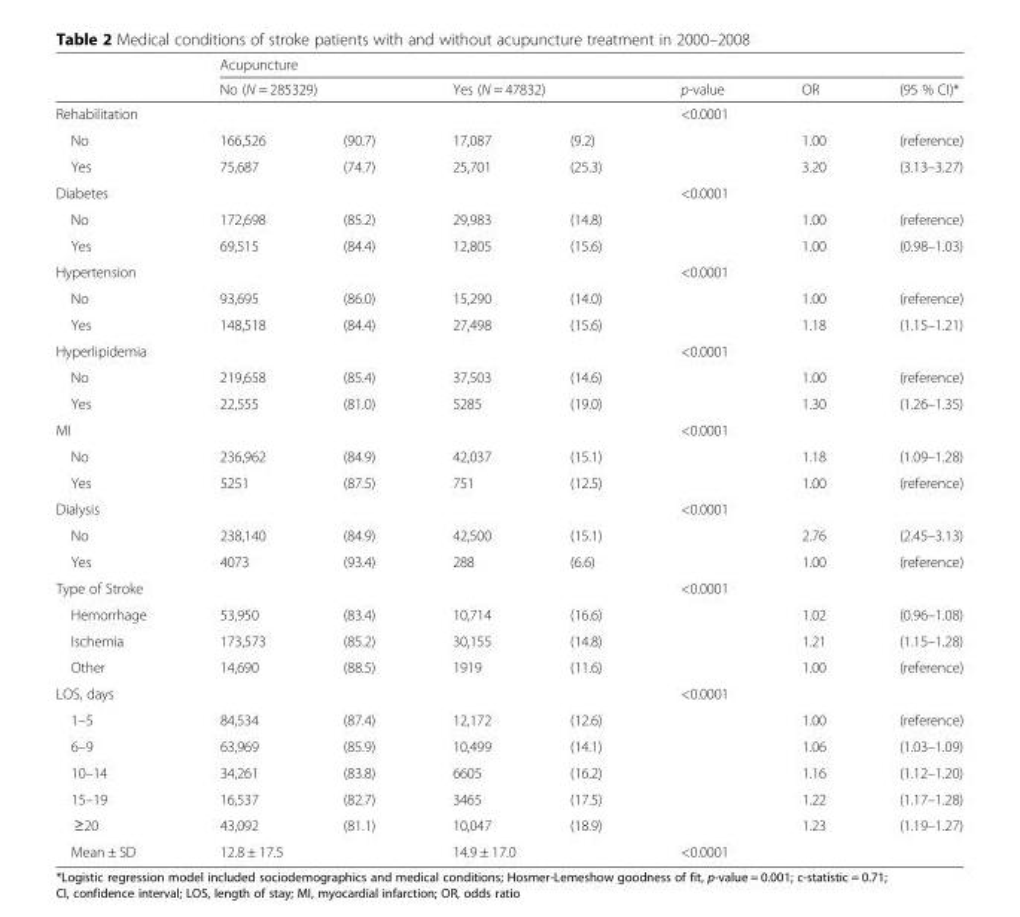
<table><thead><tr><td rowspan="2"></td><td colspan="7">Acupuncture</td></tr><tr><td colspan="2">No (N = 285329)</td><td colspan="2">Yes (N = 47832)</td><td rowspan="3">p-value &lt;0.0001</td><td rowspan="3">OR 1.00</td><td rowspan="3">(95 % CI)* (reference)</td></tr><tr><td colspan="5">Rehabilitation</td></tr><tr><td>No</td><td>166,526</td><td>(90.7)</td><td>17,087</td><td>(9.2)</td></tr></thead><tbody><tr><td>Yes</td><td>75,687</td><td>(74.7)</td><td>25,701</td><td>(25.3)</td><td></td><td>3.20</td><td>(3.13–3.27)</td></tr><tr><td colspan="5">Diabetes</td><td>&lt;0.0001</td><td></td><td></td></tr><tr><td>No</td><td>172,698</td><td>(85.2)</td><td>29,983</td><td>(14.8)</td><td></td><td>1.00</td><td>(reference)</td></tr><tr><td>Yes</td><td>69,515</td><td>(84.4)</td><td>12,805</td><td>(15.6)</td><td></td><td>1.00</td><td>(0.98–1.03)</td></tr><tr><td colspan="5">Hypertension</td><td>&lt;0.0001</td><td></td><td></td></tr><tr><td>No</td><td>93,695</td><td>(86.0)</td><td>15,290</td><td>(14.0)</td><td></td><td>1.00</td><td>(reference)</td></tr><tr><td>Yes</td><td>148,518</td><td>(84.4)</td><td>27,498</td><td>(15.6)</td><td></td><td>1.18</td><td>(1.15–1.21)</td></tr><tr><td colspan="5">Hyperlipidemia</td><td>&lt;0.0001</td><td></td><td></td></tr><tr><td>No</td><td>219,658</td><td>(85.4)</td><td>37,503</td><td>(14.6)</td><td></td><td>1.00</td><td>(reference)</td></tr><tr><td>Yes</td><td>22,555</td><td>(81.0)</td><td>5285</td><td>(19.0)</td><td></td><td>1.30</td><td>(1.26–1.35)</td></tr><tr><td colspan="5">MI</td><td>&lt;0.0001</td><td></td><td></td></tr><tr><td>No</td><td>236,962</td><td>(84.9)</td><td>42,037</td><td>(15.1)</td><td></td><td>1.18</td><td>(1.09–1.28)</td></tr><tr><td>Yes</td><td>5251</td><td>(87.5)</td><td>751</td><td>(12.5)</td><td></td><td>1.00</td><td>(reference)</td></tr><tr><td colspan="5">Dialysis</td><td>&lt;0.0001</td><td></td><td></td></tr><tr><td>No</td><td>238,140</td><td>(84.9)</td><td>42,500</td><td>(15.1)</td><td></td><td>2.76</td><td>(2.45–3.13)</td></tr><tr><td>Yes</td><td>4073</td><td>(93.4)</td><td>288</td><td>(6.6)</td><td></td><td>1.00</td><td>(reference)</td></tr><tr><td colspan="5">Type of Stroke</td><td>&lt;0.0001</td><td></td><td></td></tr><tr><td>Hemorrhage</td><td>53,950</td><td>(83.4)</td><td>10,714</td><td>(16.6)</td><td></td><td>1.02</td><td>(0.96–1.08)</td></tr><tr><td>Ischemia</td><td>173,573</td><td>(85.2)</td><td>30,155</td><td>(14.8)</td><td></td><td>1.21</td><td>(1.15–1.28)</td></tr><tr><td>Other</td><td>14,690</td><td>(88.5)</td><td>1919</td><td>(11.6)</td><td></td><td>1.00</td><td>(reference)</td></tr><tr><td colspan="5">LOS, days</td><td>&lt;0.0001</td><td></td><td></td></tr><tr><td>1–5</td><td>84,534</td><td>(87.4)</td><td>12,172</td><td>(12.6)</td><td></td><td>1.00</td><td>(reference)</td></tr><tr><td>6–9</td><td>63,969</td><td>(85.9)</td><td>10,499</td><td>(14.1)</td><td></td><td>1.06</td><td>(1.03–1.09)</td></tr><tr><td>10–14</td><td>34,261</td><td>(83.8)</td><td>6605</td><td>(16.2)</td><td></td><td>1.16</td><td>(1.12–1.20)</td></tr><tr><td>15–19</td><td>16,537</td><td>(82.7)</td><td>3465</td><td>(17.5)</td><td></td><td>1.22</td><td>(1.17–1.28)</td></tr><tr><td>≥20</td><td>43,092</td><td>(81.1)</td><td>10,047</td><td>(18.9)</td><td></td><td>1.23</td><td>(1.19–1.27)</td></tr><tr><td>Mean ± SD</td><td colspan="2">12.8 ± 17.5</td><td colspan="2">14.9 ± 17.0</td><td>&lt;0.0001</td><td></td><td></td></tr></tbody></table>